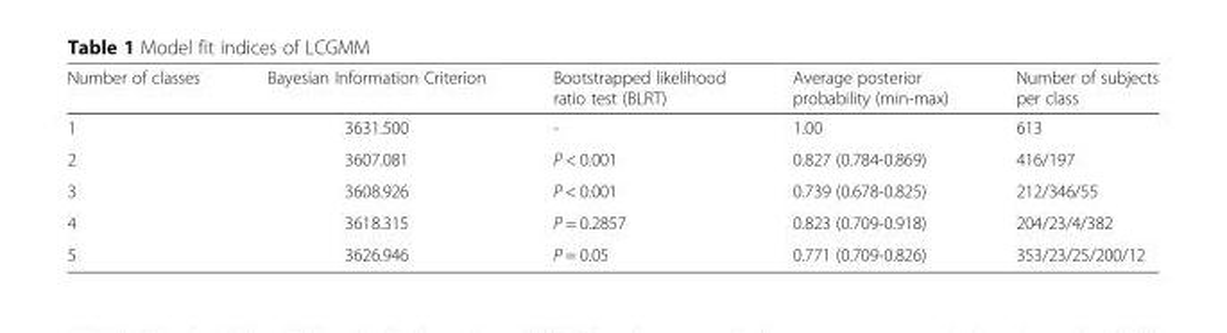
<table><thead><tr><td>Number of classes</td><td>Bayesian Information Criterion</td><td>Bootstrapped likelihood ratio test (BLRT)</td><td>Average posterior probability (min-max)</td><td>Number of subjects per class</td></tr></thead><tbody><tr><td>1</td><td>3631.500</td><td>-</td><td>1.00</td><td>613</td></tr><tr><td>2</td><td>3607.081</td><td>P &lt; 0.001</td><td>0.827 (0.784-0.869)</td><td>416/197</td></tr><tr><td>3</td><td>3608.926</td><td>P &lt; 0.001</td><td>0.739 (0.678-0.825)</td><td>212/346/55</td></tr><tr><td>4</td><td>3618.315</td><td>P = 0.2857</td><td>0.823 (0.709-0.918)</td><td>204/23/4/382</td></tr><tr><td>5</td><td>3626.946</td><td>P = 0.05</td><td>0.771 (0.709-0.826)</td><td>353/23/25/200/12</td></tr></tbody></table>